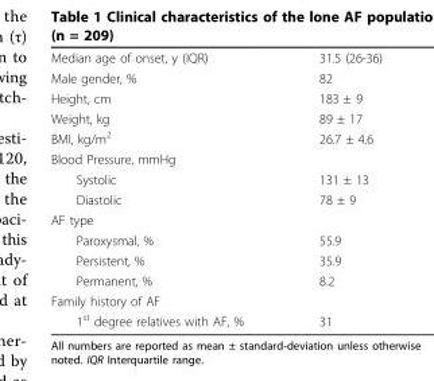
<table><tbody><tr><td>Median age of onset, y (IQR)</td><td>31.5 (26-36)</td></tr><tr><td>Male gender, %</td><td>82</td></tr><tr><td>Height, cm</td><td>183 ± 9</td></tr><tr><td>Weight, kg</td><td>89 ± 17</td></tr><tr><td>BMI, kg/m<sup>2</sup></td><td>26.7 ± 4.6</td></tr><tr><td colspan="2">Blood Pressure, mmHg</td></tr><tr><td>Systolic</td><td>131 ± 13</td></tr><tr><td>Diastolic</td><td>78 ± 9</td></tr><tr><td colspan="2">AF type</td></tr><tr><td>Paroxysmal, %</td><td>55.9</td></tr><tr><td>Persistent, %</td><td>35.9</td></tr><tr><td>Permanent, %</td><td>8.2</td></tr><tr><td colspan="2">Family history of AF</td></tr><tr><td>1<sup>st</sup> degree relatives with AF, %</td><td>31</td></tr></tbody></table>